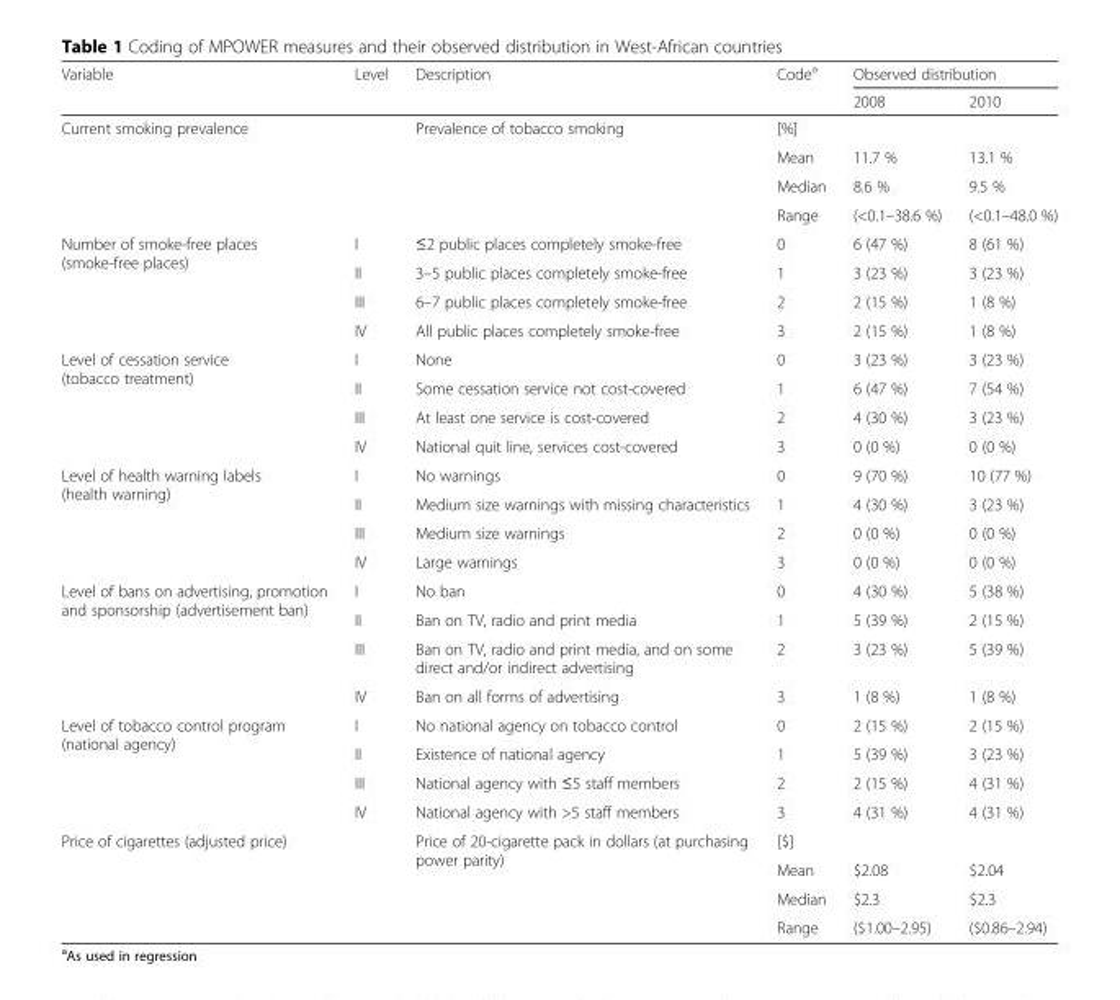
<table><thead><tr><td rowspan="2">Variable</td><td rowspan="2">Level</td><td rowspan="2">Description</td><td rowspan="2">Code<sup>a</sup></td><td colspan="2">Observed distribution</td></tr><tr><td>2008</td><td>2010</td></tr></thead><tbody><tr><td rowspan="4">Current smoking prevalence</td><td rowspan="4"></td><td rowspan="4">Prevalence of tobacco smoking</td><td>[%]</td><td></td><td></td></tr><tr><td>Mean</td><td>11.7 %</td><td>13.1 %</td></tr><tr><td>Median</td><td>8.6 %</td><td>9.5 %</td></tr><tr><td>Range</td><td>(&lt;0.1–38.6 %)</td><td>(&lt;0.1–48.0 %)</td></tr><tr><td rowspan="4">Number of smoke-free places (smoke-free places)</td><td>I</td><td>≤2 public places completely smoke-free</td><td>0</td><td>6 (47 %)</td><td>8 (61 %)</td></tr><tr><td>II</td><td>3–5 public places completely smoke-free</td><td>1</td><td>3 (23 %)</td><td>3 (23 %)</td></tr><tr><td>III</td><td>6–7 public places completely smoke-free</td><td>2</td><td>2 (15 %)</td><td>1 (8 %)</td></tr><tr><td>IV</td><td>All public places completely smoke-free</td><td>3</td><td>2 (15 %)</td><td>1 (8 %)</td></tr><tr><td rowspan="4">Level of cessation service (tobacco treatment)</td><td>I</td><td>None</td><td>0</td><td>3 (23 %)</td><td>3 (23 %)</td></tr><tr><td>II</td><td>Some cessation service not cost-covered</td><td>1</td><td>6 (47 %)</td><td>7 (54 %)</td></tr><tr><td>III</td><td>At least one service is cost-covered</td><td>2</td><td>4 (30 %)</td><td>3 (23 %)</td></tr><tr><td>IV</td><td>National quit line, services cost-covered</td><td>3</td><td>0 (0 %)</td><td>0 (0 %)</td></tr><tr><td rowspan="4">Level of health warning labels (health warning)</td><td>I</td><td>No warnings</td><td>0</td><td>9 (70 %)</td><td>10 (77 %)</td></tr><tr><td>II</td><td>Medium size warnings with missing characteristics</td><td>1</td><td>4 (30 %)</td><td>3 (23 %)</td></tr><tr><td>III</td><td>Medium size warnings</td><td>2</td><td>0 (0 %)</td><td>0 (0 %)</td></tr><tr><td>IV</td><td>Large warnings</td><td>3</td><td>0 (0 %)</td><td>0 (0 %)</td></tr><tr><td rowspan="4">Level of bans on advertising, promotion and sponsorship (advertisement ban)</td><td>I</td><td>No ban</td><td>0</td><td>4 (30 %)</td><td>5 (38 %)</td></tr><tr><td>II</td><td>Ban on TV, radio and print media</td><td>1</td><td>5 (39 %)</td><td>2 (15 %)</td></tr><tr><td>III</td><td>Ban on TV, radio and print media, and on some direct and/or indirect advertising</td><td>2</td><td>3 (23 %)</td><td>5 (39 %)</td></tr><tr><td>IV</td><td>Ban on all forms of advertising</td><td>3</td><td>1 (8 %)</td><td>1 (8 %)</td></tr><tr><td rowspan="4">Level of tobacco control program (national agency)</td><td>I</td><td>No national agency on tobacco control</td><td>0</td><td>2 (15 %)</td><td>2 (15 %)</td></tr><tr><td>II</td><td>Existence of national agency</td><td>1</td><td>5 (39 %)</td><td>3 (23 %)</td></tr><tr><td>III</td><td>National agency with ≤5 staff members</td><td>2</td><td>2 (15 %)</td><td>4 (31 %)</td></tr><tr><td>IV</td><td>National agency with &gt;5 staff members</td><td>3</td><td>4 (31 %)</td><td>4 (31 %)</td></tr><tr><td rowspan="4">Price of cigarettes (adjusted price)</td><td rowspan="4"></td><td rowspan="4">Price of 20-cigarette pack in dollars (at purchasing power parity)</td><td>[$]</td><td></td><td></td></tr><tr><td>Mean</td><td>$2.08</td><td>$2.04</td></tr><tr><td>Median</td><td>$2.3</td><td>$2.3</td></tr><tr><td>Range</td><td>($1.00–2.95)</td><td>($0.86–2.94)</td></tr></tbody></table>